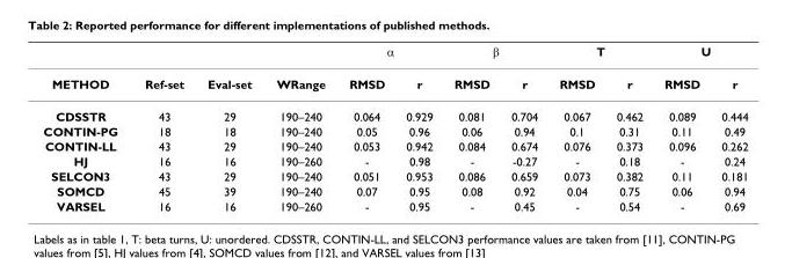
<table><thead><tr><td rowspan="2">METHOD</td><td rowspan="2">Ref-set</td><td rowspan="2">Eval-set</td><td rowspan="2">WRange</td><td colspan="2">α</td><td colspan="2">β</td><td colspan="2">T</td><td colspan="2">U</td></tr><tr><td>RMSD</td><td>r</td><td>RMSD</td><td>r</td><td>RMSD</td><td>r</td><td>RMSD</td><td>r</td></tr></thead><tbody><tr><td>CDSSTR</td><td>43</td><td>29</td><td>190–240</td><td>0.064</td><td>0.929</td><td>0.081</td><td>0.704</td><td>0.067</td><td>0.462</td><td>0.089</td><td>0.444</td></tr><tr><td>CONTIN-PG</td><td>18</td><td>18</td><td>190–240</td><td>0.05</td><td>0.96</td><td>0.06</td><td>0.94</td><td>0.1</td><td>0.31</td><td>0.11</td><td>0.49</td></tr><tr><td>CONTIN-LL</td><td>43</td><td>29</td><td>190–240</td><td>0.053</td><td>0.942</td><td>0.084</td><td>0.674</td><td>0.076</td><td>0.373</td><td>0.096</td><td>0.262</td></tr><tr><td>HJ</td><td>16</td><td>16</td><td>190–260</td><td>-</td><td>0.98</td><td>-</td><td>-0.27</td><td>-</td><td>0.18</td><td>-</td><td>0.24</td></tr><tr><td>SELCON3</td><td>43</td><td>29</td><td>190–240</td><td>0.051</td><td>0.953</td><td>0.086</td><td>0.659</td><td>0.073</td><td>0.382</td><td>0.11</td><td>0.181</td></tr><tr><td>SOMCD</td><td>45</td><td>39</td><td>190–240</td><td>0.07</td><td>0.95</td><td>0.08</td><td>0.92</td><td>0.04</td><td>0.75</td><td>0.06</td><td>0.94</td></tr><tr><td>VARSEL</td><td>16</td><td>16</td><td>190–260</td><td>-</td><td>0.95</td><td>-</td><td>0.45</td><td>-</td><td>0.54</td><td>-</td><td>0.69</td></tr></tbody></table>